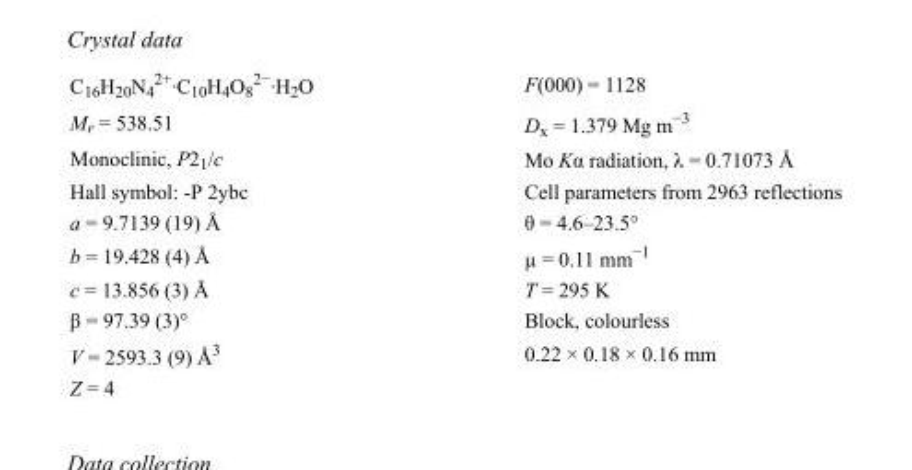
<table><tbody><tr><td>C<sub>16</sub>H<sub>20</sub>N<sub>4</sub> <sup>2+</sup>·C<sub>10</sub>H<sub>4</sub>O<sub>8</sub> <sup>2−</sup>·H<sub>2</sub>O</td><td>F(000) = 1128</td></tr><tr><td>M<sub>r</sub> = 538.51</td><td>D<sub>x</sub> = 1.379 Mg m<sup>−3</sup></td></tr><tr><td>Monoclinic, P2<sub>1</sub>/c</td><td>Mo Kα radiation, λ = 0.71073 Å</td></tr><tr><td>Hall symbol: -P 2ybc</td><td>Cell parameters from 2963 reflections</td></tr><tr><td>a = 9.7139 (19) Å</td><td>θ = 4.6–23.5°</td></tr><tr><td>b = 19.428 (4) Å</td><td>µ = 0.11 mm<sup>−1</sup></td></tr><tr><td>c = 13.856 (3) Å</td><td>T = 295 K</td></tr><tr><td>β = 97.39 (3)°</td><td>Block, colourless</td></tr><tr><td>V = 2593.3 (9) Å<sup>3</sup></td><td>0.22 × 0.18 × 0.16 mm</td></tr><tr><td>Z = 4</td><td></td></tr></tbody></table>